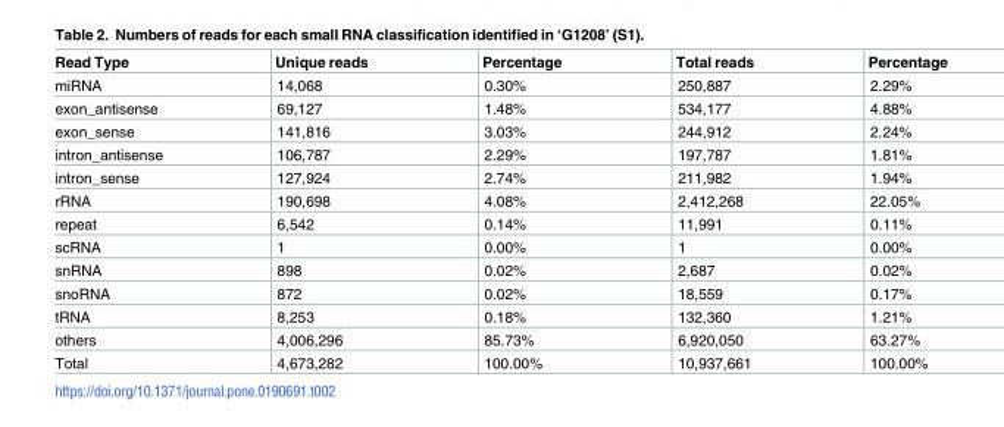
<table><thead><tr><td>Read Type</td><td>Unique reads</td><td>Percentage</td><td>Total reads</td><td>Percentage</td></tr></thead><tbody><tr><td>miRNA</td><td>14,068</td><td>0.30%</td><td>250,887</td><td>2.29%</td></tr><tr><td>exon_antisense</td><td>69,127</td><td>1.48%</td><td>534,177</td><td>4.88%</td></tr><tr><td>exon_sense</td><td>141,816</td><td>3.03%</td><td>244,912</td><td>2.24%</td></tr><tr><td>intron_antisense</td><td>106,787</td><td>2.29%</td><td>197,787</td><td>1.81%</td></tr><tr><td>intron_sense</td><td>127,924</td><td>2.74%</td><td>211,982</td><td>1.94%</td></tr><tr><td>rRNA</td><td>190,698</td><td>4.08%</td><td>2,412,268</td><td>22.05%</td></tr><tr><td>repeat</td><td>6,542</td><td>0.14%</td><td>11,991</td><td>0.11%</td></tr><tr><td>scRNA</td><td>1</td><td>0.00%</td><td>1</td><td>0.00%</td></tr><tr><td>snRNA</td><td>898</td><td>0.02%</td><td>2,687</td><td>0.02%</td></tr><tr><td>snoRNA</td><td>872</td><td>0.02%</td><td>18,559</td><td>0.17%</td></tr><tr><td>tRNA</td><td>8,253</td><td>0.18%</td><td>132,360</td><td>1.21%</td></tr><tr><td>others</td><td>4,006,296</td><td>85.73%</td><td>6,920,050</td><td>63.27%</td></tr><tr><td>Total</td><td>4,673,282</td><td>100.00%</td><td>10,937,661</td><td>100.00%</td></tr></tbody></table>